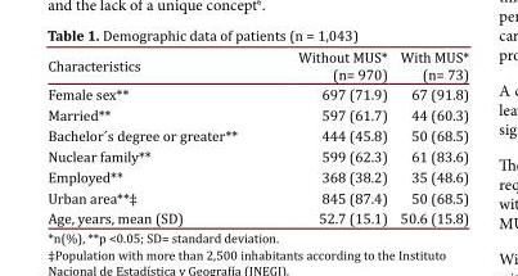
<table><thead><tr><td>Characteristics</td><td>Without MUS* (n= 970)</td><td>With MUS* (n= 73)</td></tr></thead><tbody><tr><td>Female sex**</td><td>697 (71.9)</td><td>67 (91.8)</td></tr><tr><td>Married**</td><td>597 (61.7)</td><td>44 (60.3)</td></tr><tr><td>Bachelor´s degree or greater**</td><td>444 (45.8)</td><td>50 (68.5)</td></tr><tr><td>Nuclear family**</td><td>599 (62.3)</td><td>61 (83.6)</td></tr><tr><td>Employed**</td><td>368 (38.2)</td><td>35 (48.6)</td></tr><tr><td>Urban area**‡</td><td>845 (87.4)</td><td>50 (68.5)</td></tr><tr><td>Age, years, mean (SD)</td><td>52.7 (15.1)</td><td>50.6 (15.8)</td></tr></tbody></table>